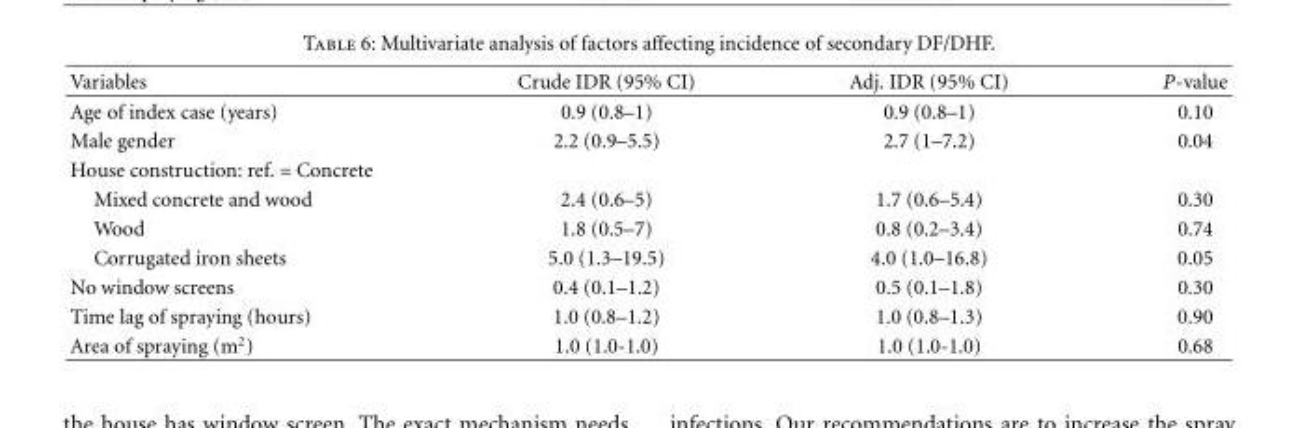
<table><thead><tr><td>Variables</td><td>Crude IDR (95% CI)</td><td>Adj. IDR (95% CI)</td><td>P-value</td></tr></thead><tbody><tr><td>Age of index case (years)</td><td>0.9 (0.8–1)</td><td>0.9 (0.8–1)</td><td>0.10</td></tr><tr><td>Male gender</td><td>2.2 (0.9–5.5)</td><td>2.7 (1–7.2)</td><td>0.04</td></tr><tr><td colspan="4">House construction: ref. = Concrete</td></tr><tr><td>Mixed concrete and wood</td><td>2.4 (0.6–5)</td><td>1.7 (0.6–5.4)</td><td>0.30</td></tr><tr><td>Wood</td><td>1.8 (0.5–7)</td><td>0.8 (0.2–3.4)</td><td>0.74</td></tr><tr><td>Corrugated iron sheets</td><td>5.0 (1.3–19.5)</td><td>4.0 (1.0–16.8)</td><td>0.05</td></tr><tr><td>No window screens</td><td>0.4 (0.1–1.2)</td><td>0.5 (0.1–1.8)</td><td>0.30</td></tr><tr><td>Time lag of spraying (hours)</td><td>1.0 (0.8–1.2)</td><td>1.0 (0.8–1.3)</td><td>0.90</td></tr><tr><td>Area of spraying (m<sup>2</sup>)</td><td>1.0 (1.0-1.0)</td><td>1.0 (1.0-1.0)</td><td>0.68</td></tr></tbody></table>